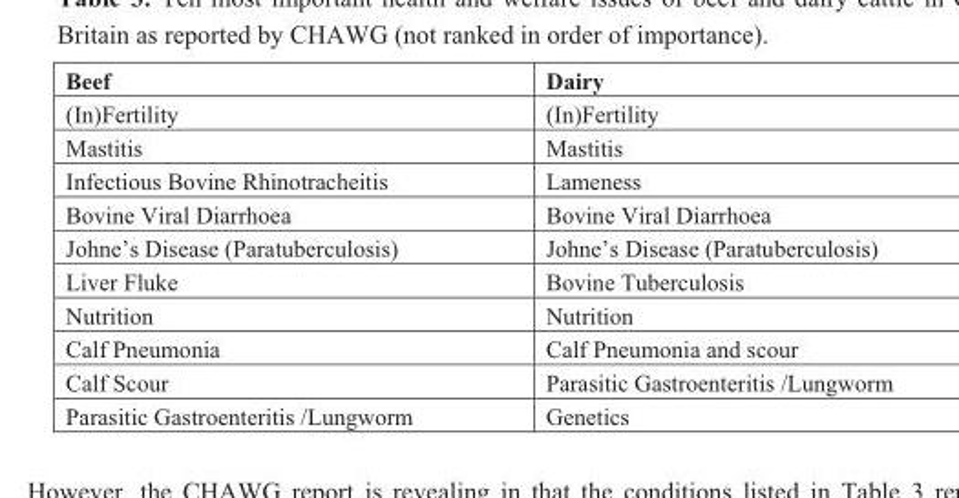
<table><thead><tr><td>Beef</td><td>Dairy</td></tr></thead><tbody><tr><td>(In)Fertility</td><td>(In)Fertility</td></tr><tr><td>Mastitis</td><td>Mastitis</td></tr><tr><td>Infectious Bovine Rhinotracheitis</td><td>Lameness</td></tr><tr><td>Bovine Viral Diarrhoea</td><td>Bovine Viral Diarrhoea</td></tr><tr><td>Johne’s Disease (Paratuberculosis)</td><td>Johne’s Disease (Paratuberculosis)</td></tr><tr><td>Liver Fluke</td><td>Bovine Tuberculosis</td></tr><tr><td>Nutrition</td><td>Nutrition</td></tr><tr><td>Calf Pneumonia</td><td>Calf Pneumonia and scour</td></tr><tr><td>Calf Scour</td><td>Parasitic Gastroenteritis /Lungworm</td></tr><tr><td>Parasitic Gastroenteritis /Lungworm</td><td>Genetics</td></tr></tbody></table>